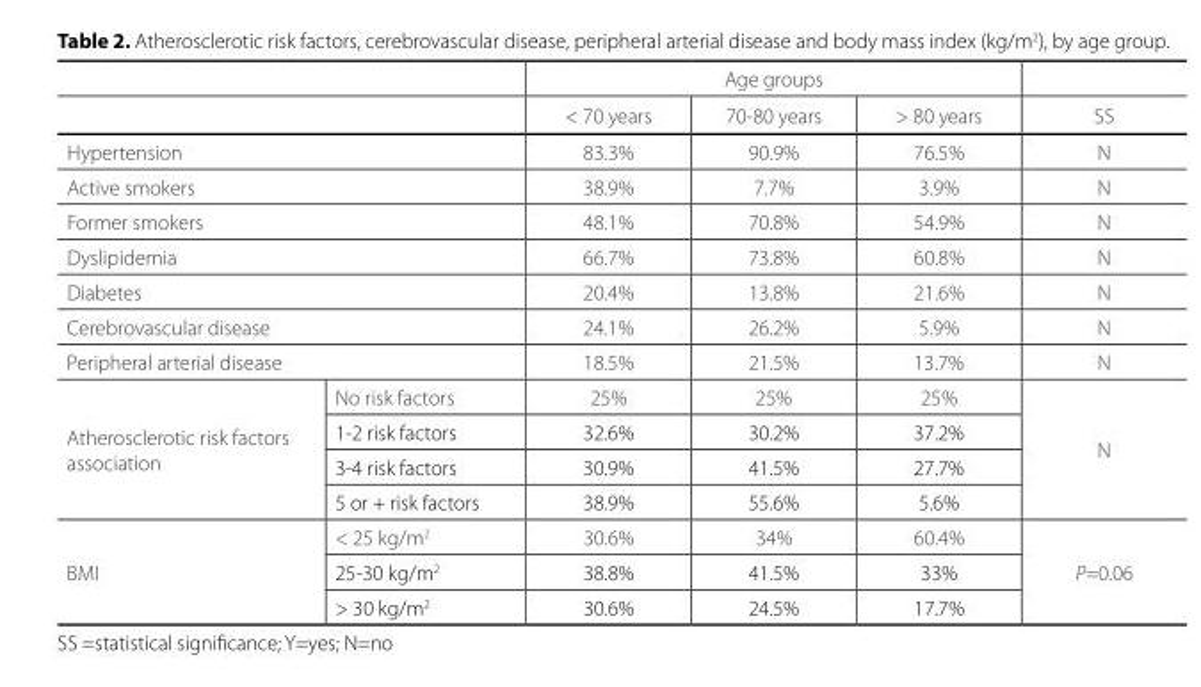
<table><thead><tr><td rowspan="2"></td><td rowspan="2"></td><td colspan="3">Age groups</td><td rowspan="2">SS</td></tr><tr><td>&lt; 70 years</td><td>70-80 years</td><td>&gt; 80 years</td></tr></thead><tbody><tr><td colspan="2">Hypertension</td><td>83.3%</td><td>90.9%</td><td>76.5%</td><td>N</td></tr><tr><td colspan="2">Active smokers</td><td>38.9%</td><td>7.7%</td><td>3.9%</td><td>N</td></tr><tr><td colspan="2">Former smokers</td><td>48.1%</td><td>70.8%</td><td>54.9%</td><td>N</td></tr><tr><td colspan="2">Dyslipidemia</td><td>66.7%</td><td>73.8%</td><td>60.8%</td><td>N</td></tr><tr><td colspan="2">Diabetes</td><td>20.4%</td><td>13.8%</td><td>21.6%</td><td>N</td></tr><tr><td colspan="2">Cerebrovascular disease</td><td>24.1%</td><td>26.2%</td><td>5.9%</td><td>N</td></tr><tr><td colspan="2">Peripheral arterial disease</td><td>18.5%</td><td>21.5%</td><td>13.7%</td><td>N</td></tr><tr><td rowspan="4">Atherosclerotic risk factors association</td><td>No risk factors</td><td>25%</td><td>25%</td><td>25%</td><td rowspan="4">N</td></tr><tr><td>1-2 risk factors</td><td>32.6%</td><td>30.2%</td><td>37.2%</td></tr><tr><td>3-4 risk factors</td><td>30.9%</td><td>41.5%</td><td>27.7%</td></tr><tr><td>5 or + risk factors</td><td>38.9%</td><td>55.6%</td><td>5.6%</td></tr><tr><td rowspan="3">BMI</td><td>&lt; 25 kg/m<sup>2</sup></td><td>30.6%</td><td>34%</td><td>60.4%</td><td rowspan="3">P=0.06</td></tr><tr><td>25-30 kg/m<sup>2</sup></td><td>38.8%</td><td>41.5%</td><td>33%</td></tr><tr><td>&gt; 30 kg/m<sup>2</sup></td><td>30.6%</td><td>24.5%</td><td>17.7%</td></tr></tbody></table>